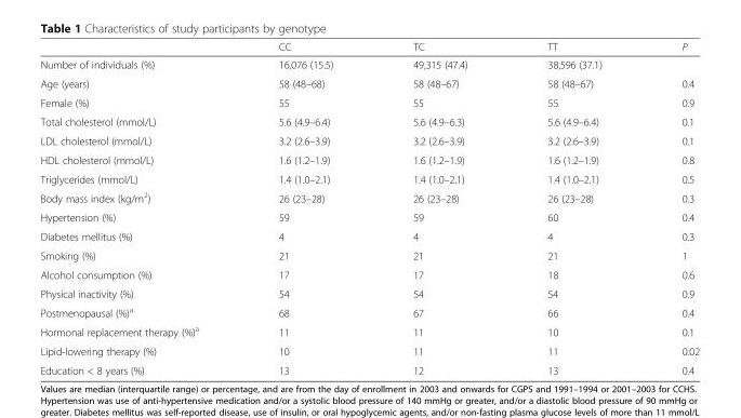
<table><thead><tr><td></td><td>CC</td><td>TC</td><td>TT</td><td>P</td></tr></thead><tbody><tr><td>Number of individuals (%)</td><td>16,076 (15.5)</td><td>49,315 (47.4)</td><td>38,596 (37.1)</td><td></td></tr><tr><td>Age (years)</td><td>58 (48–68)</td><td>58 (48–67)</td><td>58 (48–67)</td><td>0.4</td></tr><tr><td>Female (%)</td><td>55</td><td>55</td><td>55</td><td>0.9</td></tr><tr><td>Total cholesterol (mmol/L)</td><td>5.6 (4.9–6.4)</td><td>5.6 (4.9–6.3)</td><td>5.6 (4.9–6.4)</td><td>0.1</td></tr><tr><td>LDL cholesterol (mmol/L)</td><td>3.2 (2.6–3.9)</td><td>3.2 (2.6–3.9)</td><td>3.2 (2.6–3.9)</td><td>0.1</td></tr><tr><td>HDL cholesterol (mmol/L)</td><td>1.6 (1.2–1.9)</td><td>1.6 (1.2–1.9)</td><td>1.6 (1.2–1.9)</td><td>0.8</td></tr><tr><td>Triglycerides (mmol/L)</td><td>1.4 (1.0–2.1)</td><td>1.4 (1.0–2.1)</td><td>1.4 (1.0–2.1)</td><td>0.5</td></tr><tr><td>Body mass index (kg/m<sup>2</sup>)</td><td>26 (23–28)</td><td>26 (23–28)</td><td>26 (23–28)</td><td>0.3</td></tr><tr><td>Hypertension (%)</td><td>59</td><td>59</td><td>60</td><td>0.4</td></tr><tr><td>Diabetes mellitus (%)</td><td>4</td><td>4</td><td>4</td><td>0.3</td></tr><tr><td>Smoking (%)</td><td>21</td><td>21</td><td>21</td><td>1</td></tr><tr><td>Alcohol consumption (%)</td><td>17</td><td>17</td><td>18</td><td>0.6</td></tr><tr><td>Physical inactivity (%)</td><td>54</td><td>54</td><td>54</td><td>0.9</td></tr><tr><td>Postmenopausal (%)<sup>a</sup></td><td>68</td><td>67</td><td>66</td><td>0.4</td></tr><tr><td>Hormonal replacement therapy (%)<sup>a</sup></td><td>11</td><td>11</td><td>10</td><td>0.1</td></tr><tr><td>Lipid-lowering therapy (%)</td><td>10</td><td>11</td><td>11</td><td>0.02</td></tr><tr><td>Education &lt; 8 years (%)</td><td>13</td><td>12</td><td>13</td><td>0.4</td></tr></tbody></table>